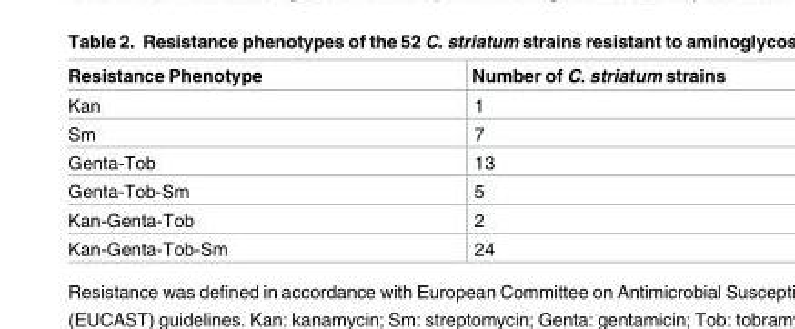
<table><thead><tr><td>Resistance Phenotype</td><td>Number of C. striatum strains</td></tr></thead><tbody><tr><td>Kan</td><td>1</td></tr><tr><td>Sm</td><td>7</td></tr><tr><td>Genta-Tob</td><td>13</td></tr><tr><td>Genta-Tob-Sm</td><td>5</td></tr><tr><td>Kan-Genta-Tob</td><td>2</td></tr><tr><td>Kan-Genta-Tob-Sm</td><td>24</td></tr></tbody></table>